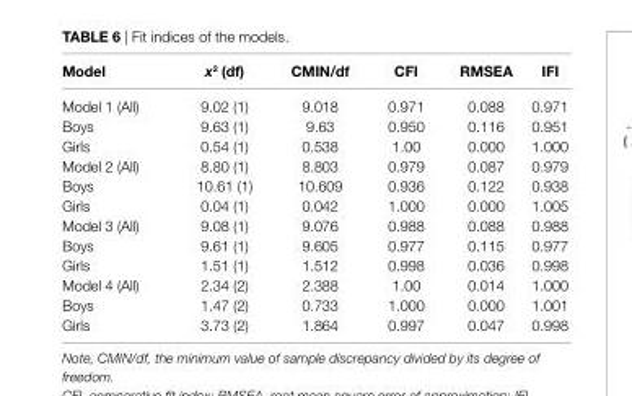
<table><thead><tr><td>Model</td><td>x<sup>2</sup> (df)</td><td>cMin/df</td><td>cFi</td><td>rMsea</td><td>iFi</td></tr></thead><tbody><tr><td>Model 1 (All)</td><td>9.02 (1)</td><td>9.018</td><td>0.971</td><td>0.088</td><td>0.971</td></tr><tr><td>Boys</td><td>9.63 (1)</td><td>9.63</td><td>0.950</td><td>0.116</td><td>0.951</td></tr><tr><td>Girls</td><td>0.54 (1)</td><td>0.538</td><td>1.00</td><td>0.000</td><td>1.000</td></tr><tr><td>Model 2 (All)</td><td>8.80 (1)</td><td>8.803</td><td>0.979</td><td>0.087</td><td>0.979</td></tr><tr><td>Boys</td><td>10.61 (1)</td><td>10.609</td><td>0.936</td><td>0.122</td><td>0.938</td></tr><tr><td>Girls</td><td>0.04 (1)</td><td>0.042</td><td>1.000</td><td>0.000</td><td>1.005</td></tr><tr><td>Model 3 (All)</td><td>9.08 (1)</td><td>9.076</td><td>0.988</td><td>0.088</td><td>0.988</td></tr><tr><td>Boys</td><td>9.61 (1)</td><td>9.605</td><td>0.977</td><td>0.115</td><td>0.977</td></tr><tr><td>Girls</td><td>1.51 (1)</td><td>1.512</td><td>0.998</td><td>0.036</td><td>0.998</td></tr><tr><td>Model 4 (All)</td><td>2.34 (2)</td><td>2.388</td><td>1.00</td><td>0.014</td><td>1.000</td></tr><tr><td>Boys</td><td>1.47 (2)</td><td>0.733</td><td>1.000</td><td>0.000</td><td>1.001</td></tr><tr><td>Girls</td><td>3.73 (2)</td><td>1.864</td><td>0.997</td><td>0.047</td><td>0.998</td></tr></tbody></table>